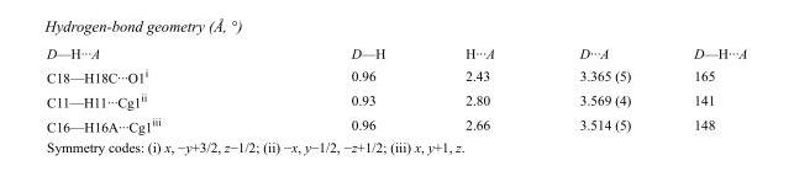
<table><tbody><tr><td>D—H···A</td><td>D—H</td><td>H···A</td><td>D···A</td><td>D—H···A</td></tr><tr><td>C18—H18C···O1<sup>i</sup></td><td>0.96</td><td>2.43</td><td>3.365 (5)</td><td>165</td></tr><tr><td>C11—H11···Cg1<sup>ii</sup></td><td>0.93</td><td>2.80</td><td>3.569 (4)</td><td>141</td></tr><tr><td>C16—H16A···Cg1<sup>iii</sup></td><td>0.96</td><td>2.66</td><td>3.514 (5)</td><td>148</td></tr></tbody></table>